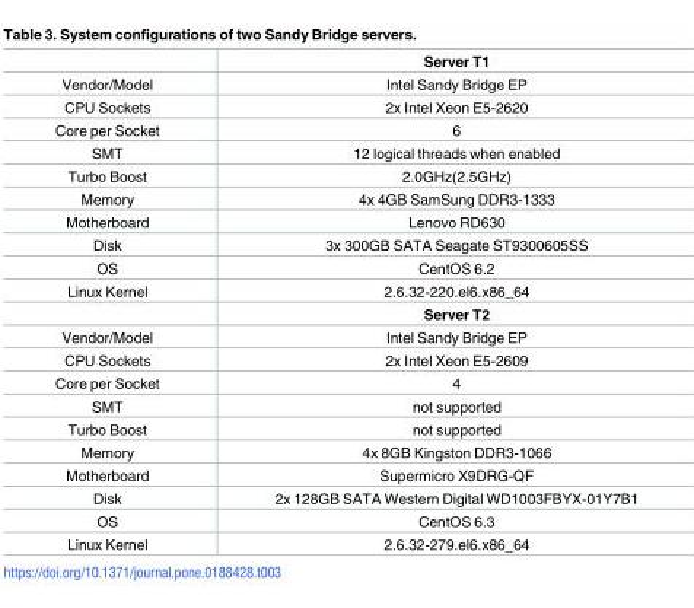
<table><thead><tr><td></td><td>Server T1</td></tr></thead><tbody><tr><td>Vendor/Model</td><td>Intel Sandy Bridge EP</td></tr><tr><td>CPU Sockets</td><td>2x Intel Xeon E5-2620</td></tr><tr><td>Core per Socket</td><td>6</td></tr><tr><td>SMT</td><td>12 logical threads when enabled</td></tr><tr><td>Turbo Boost</td><td>2.0GHz(2.5GHz)</td></tr><tr><td>Memory</td><td>4x 4GB SamSung DDR3-1333</td></tr><tr><td>Motherboard</td><td>Lenovo RD630</td></tr><tr><td>Disk</td><td>3x 300GB SATA Seagate ST9300605SS</td></tr><tr><td>OS</td><td>CentOS 6.2</td></tr><tr><td rowspan="2">Linux Kernel</td><td>2.6.32-220.el6.x86_64</td></tr><tr><td>Server T2</td></tr><tr><td>Vendor/Model</td><td>Intel Sandy Bridge EP</td></tr><tr><td>CPU Sockets</td><td>2x Intel Xeon E5-2609</td></tr><tr><td>Core per Socket</td><td>4</td></tr><tr><td>SMT</td><td>not supported</td></tr><tr><td>Turbo Boost</td><td>not supported</td></tr><tr><td>Memory</td><td>4x 8GB Kingston DDR3-1066</td></tr><tr><td>Motherboard</td><td>Supermicro X9DRG-QF</td></tr><tr><td>Disk</td><td>2x 128GB SATA Western Digital WD1003FBYX-01Y7B1</td></tr><tr><td>OS</td><td>CentOS 6.3</td></tr><tr><td>Linux Kernel</td><td>2.6.32-279.el6.x86_64</td></tr></tbody></table>